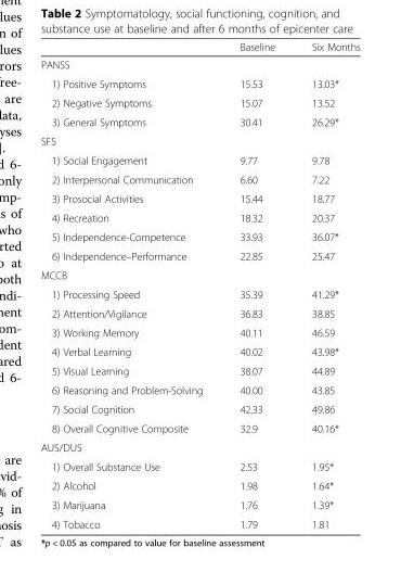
<table><thead><tr><td></td><td>Baseline</td><td>Six Months</td></tr></thead><tbody><tr><td colspan="3">PANSS</td></tr><tr><td>1) Positive Symptoms</td><td>15.53</td><td>13.03*</td></tr><tr><td>2) Negative Symptoms</td><td>15.07</td><td>13.52</td></tr><tr><td>3) General Symptoms</td><td>30.41</td><td>26.29*</td></tr><tr><td colspan="3">SFS</td></tr><tr><td>1) Social Engagement</td><td>9.77</td><td>9.78</td></tr><tr><td>2) Interpersonal Communication</td><td>6.60</td><td>7.22</td></tr><tr><td>3) Prosocial Activities</td><td>15.44</td><td>18.77</td></tr><tr><td>4) Recreation</td><td>18.32</td><td>20.37</td></tr><tr><td>5) Independence-Competence</td><td>33.93</td><td>36.07*</td></tr><tr><td>6) Independence–Performance</td><td>22.85</td><td>25.47</td></tr><tr><td colspan="3">MCCB</td></tr><tr><td>1) Processing Speed</td><td>35.39</td><td>41.29*</td></tr><tr><td>2) Attention/Vigilance</td><td>36.83</td><td>38.85</td></tr><tr><td>3) Working Memory</td><td>40.11</td><td>46.59</td></tr><tr><td>4) Verbal Learning</td><td>40.02</td><td>43.98*</td></tr><tr><td>5) Visual Learning</td><td>38.07</td><td>44.89</td></tr><tr><td>6) Reasoning and Problem-Solving</td><td>40.00</td><td>43.85</td></tr><tr><td>7) Social Cognition</td><td>42.33</td><td>49.86</td></tr><tr><td>8) Overall Cognitive Composite</td><td>32.9</td><td>40.16*</td></tr><tr><td colspan="3">AUS/DUS</td></tr><tr><td>1) Overall Substance Use</td><td>2.53</td><td>1.95*</td></tr><tr><td>2) Alcohol</td><td>1.98</td><td>1.64*</td></tr><tr><td>3) Marijuana</td><td>1.76</td><td>1.39*</td></tr><tr><td>4) Tobacco</td><td>1.79</td><td>1.81</td></tr></tbody></table>